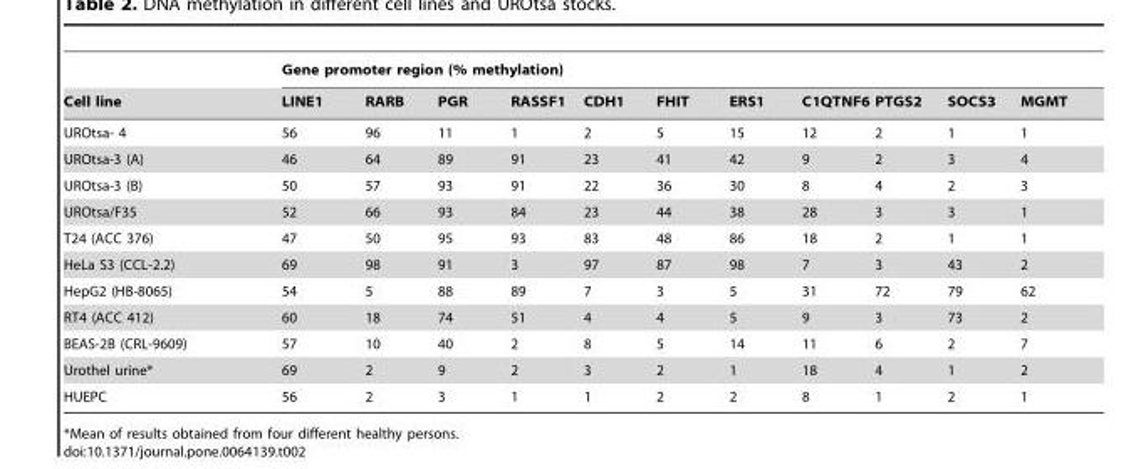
<table><thead><tr><td rowspan="2">Cell line</td><td colspan="11">Gene promoter region (% methylation)</td></tr><tr><td>LINE1</td><td>RARB</td><td>PGR</td><td>RASSF1</td><td>CDH1</td><td>FHIT</td><td>ERS1</td><td>C1QTNF6</td><td>PTGS2</td><td>SOCS3</td><td>MGMT</td></tr></thead><tbody><tr><td>UROtsa- 4</td><td>56</td><td>96</td><td>11</td><td>1</td><td>2</td><td>5</td><td>15</td><td>12</td><td>2</td><td>1</td><td>1</td></tr><tr><td>UROtsa-3 (A)</td><td>46</td><td>64</td><td>89</td><td>91</td><td>23</td><td>41</td><td>42</td><td>9</td><td>2</td><td>3</td><td>4</td></tr><tr><td>UROtsa-3 (B)</td><td>50</td><td>57</td><td>93</td><td>91</td><td>22</td><td>36</td><td>30</td><td>8</td><td>4</td><td>2</td><td>3</td></tr><tr><td>UROtsa/F35</td><td>52</td><td>66</td><td>93</td><td>84</td><td>23</td><td>44</td><td>38</td><td>28</td><td>3</td><td>3</td><td>1</td></tr><tr><td>T24 (ACC 376)</td><td>47</td><td>50</td><td>95</td><td>93</td><td>83</td><td>48</td><td>86</td><td>18</td><td>2</td><td>1</td><td>1</td></tr><tr><td>HeLa S3 (CCL-2.2)</td><td>69</td><td>98</td><td>91</td><td>3</td><td>97</td><td>87</td><td>98</td><td>7</td><td>3</td><td>43</td><td>2</td></tr><tr><td>HepG2 (HB-8065)</td><td>54</td><td>5</td><td>88</td><td>89</td><td>7</td><td>3</td><td>5</td><td>31</td><td>72</td><td>79</td><td>62</td></tr><tr><td>RT4 (ACC 412)</td><td>60</td><td>18</td><td>74</td><td>51</td><td>4</td><td>4</td><td>5</td><td>9</td><td>3</td><td>73</td><td>2</td></tr><tr><td>BEAS-2B (CRL-9609)</td><td>57</td><td>10</td><td>40</td><td>2</td><td>8</td><td>5</td><td>14</td><td>11</td><td>6</td><td>2</td><td>7</td></tr><tr><td>Urothel urine*</td><td>69</td><td>2</td><td>9</td><td>2</td><td>3</td><td>2</td><td>1</td><td>18</td><td>4</td><td>1</td><td>2</td></tr><tr><td>HUEPC</td><td>56</td><td>2</td><td>3</td><td>1</td><td>1</td><td>2</td><td>2</td><td>8</td><td>1</td><td>2</td><td>1</td></tr></tbody></table>